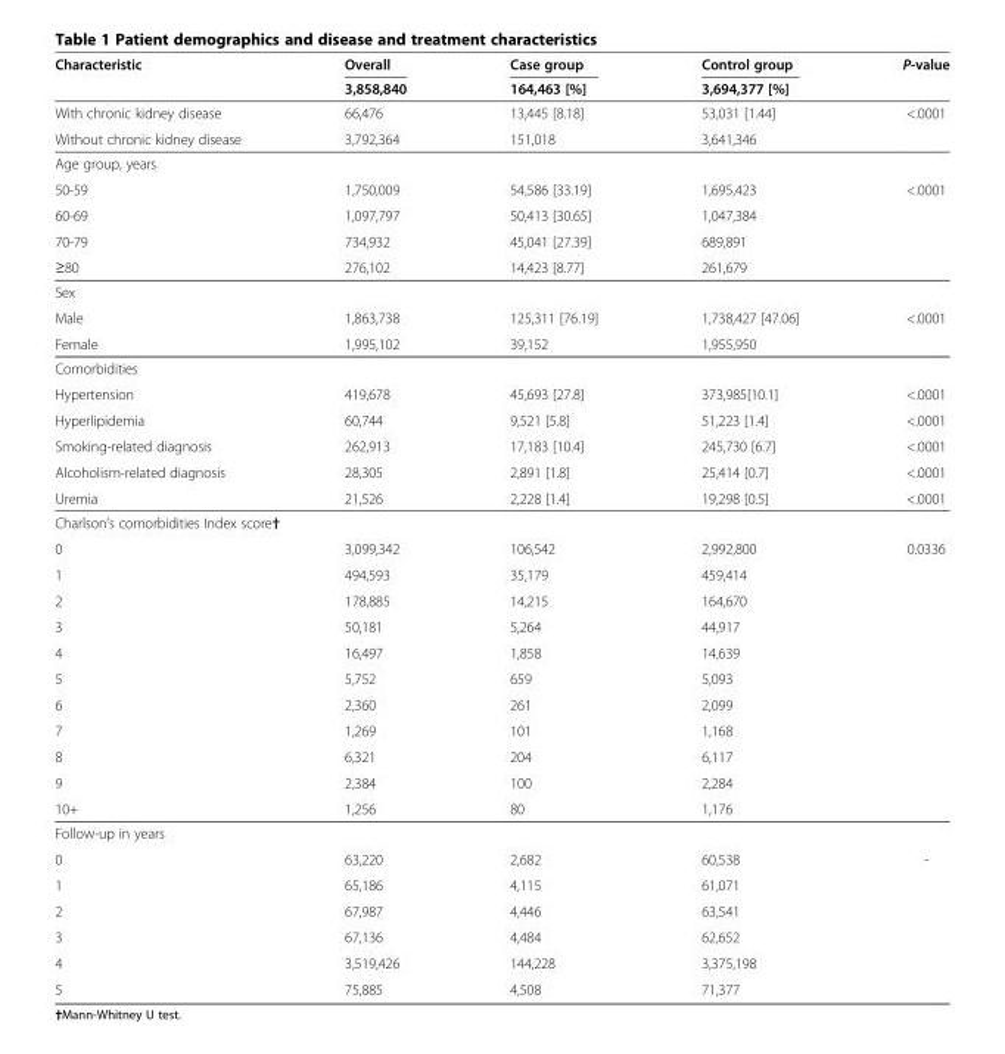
<table><thead><tr><td rowspan="2">Characteristic</td><td rowspan="2">Overall 3,858,840</td><td rowspan="2">Case group 164,463 [%]</td><td rowspan="2">Control group 3,694,377 [%]</td><td rowspan="2">P-value</td></tr><tr></tr></thead><tbody><tr><td>With chronic kidney disease</td><td>66,476</td><td>13,445 [8.18]</td><td>53,031 [1.44]</td><td>&lt;.0001</td></tr><tr><td>Without chronic kidney disease</td><td>3,792,364</td><td>151,018</td><td>3,641,346</td><td></td></tr><tr><td colspan="5">Age group, years</td></tr><tr><td>50-59</td><td>1,750,009</td><td>54,586 [33.19]</td><td>1,695,423</td><td rowspan="3">&lt;.0001</td></tr><tr><td>60-69</td><td>1,097,797</td><td>50,413 [30.65]</td><td>1,047,384</td></tr><tr><td>70-79</td><td>734,932</td><td>45,041 [27.39]</td><td>689,891</td></tr><tr><td>≥80</td><td>276,102</td><td>14,423 [8.77]</td><td>261,679</td><td></td></tr><tr><td colspan="5">Sex</td></tr><tr><td>Male</td><td>1,863,738</td><td>125,311 [76.19]</td><td>1,738,427 [47.06]</td><td>&lt;.0001</td></tr><tr><td>Female</td><td>1,995,102</td><td>39,152</td><td>1,955,950</td><td></td></tr><tr><td colspan="5">Comorbidities</td></tr><tr><td>Hypertension</td><td>419,678</td><td>45,693 [27.8]</td><td>373,985[10.1]</td><td>&lt;.0001</td></tr><tr><td>Hyperlipidemia</td><td>60,744</td><td>9,521 [5.8]</td><td>51,223 [1.4]</td><td>&lt;.0001</td></tr><tr><td>Smoking-related diagnosis</td><td>262,913</td><td>17,183 [10.4]</td><td>245,730 [6.7]</td><td>&lt;.0001</td></tr><tr><td>Alcoholism-related diagnosis</td><td>28,305</td><td>2,891 [1.8]</td><td>25,414 [0.7]</td><td>&lt;.0001</td></tr><tr><td>Uremia</td><td>21,526</td><td>2,228 [1.4]</td><td>19,298 [0.5]</td><td>&lt;.0001</td></tr><tr><td colspan="5">Charlson’s comorbidities Index score†</td></tr><tr><td>0</td><td>3,099,342</td><td>106,542</td><td>2,992,800</td><td rowspan="10">0.0336</td></tr><tr><td>1</td><td>494,593</td><td>35,179</td><td>459,414</td></tr><tr><td>2</td><td>178,885</td><td>14,215</td><td>164,670</td></tr><tr><td>3</td><td>50,181</td><td>5,264</td><td>44,917</td></tr><tr><td>4</td><td>16,497</td><td>1,858</td><td>14,639</td></tr><tr><td>5</td><td>5,752</td><td>659</td><td>5,093</td></tr><tr><td>6</td><td>2,360</td><td>261</td><td>2,099</td></tr><tr><td>7</td><td>1,269</td><td>101</td><td>1,168</td></tr><tr><td>8</td><td>6,321</td><td>204</td><td>6,117</td></tr><tr><td>9</td><td>2,384</td><td>100</td><td>2,284</td></tr><tr><td>10+</td><td>1,256</td><td>80</td><td>1,176</td><td></td></tr><tr><td colspan="5">Follow-up in years</td></tr><tr><td>0</td><td>63,220</td><td>2,682</td><td>60,538</td><td rowspan="5">-</td></tr><tr><td>1</td><td>65,186</td><td>4,115</td><td>61,071</td></tr><tr><td>2</td><td>67,987</td><td>4,446</td><td>63,541</td></tr><tr><td>3</td><td>67,136</td><td>4,484</td><td>62,652</td></tr><tr><td>4</td><td>3,519,426</td><td>144,228</td><td>3,375,198</td></tr><tr><td>5</td><td>75,885</td><td>4,508</td><td>71,377</td><td></td></tr></tbody></table>